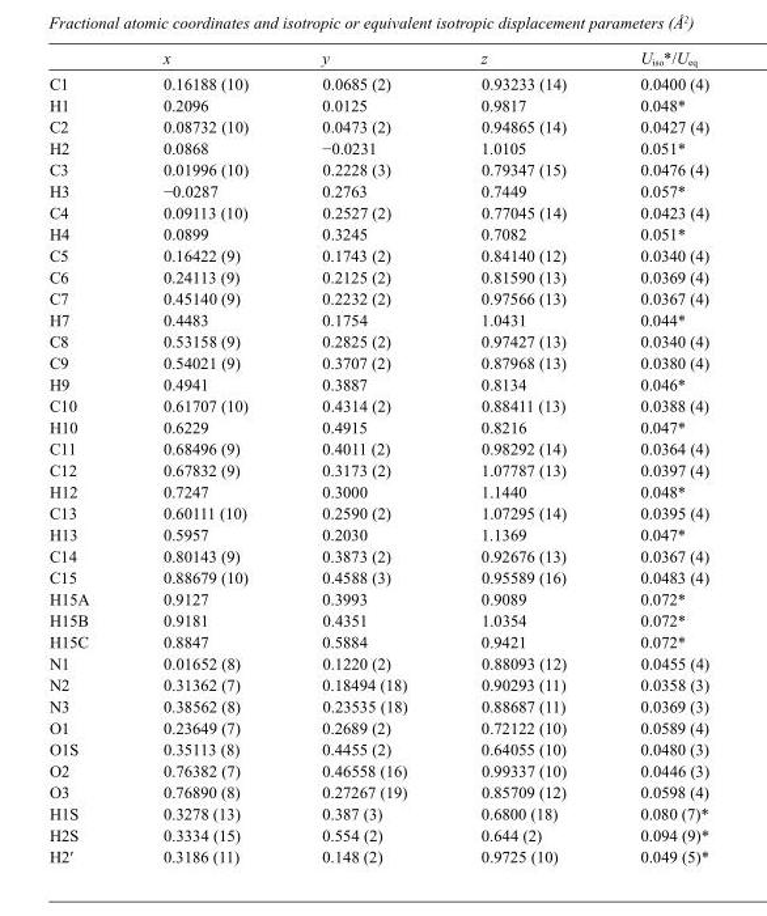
<table><thead><tr><td></td><td>x</td><td>y</td><td>z</td><td>U<sub>iso</sub>*/U<sub>eq</sub></td></tr></thead><tbody><tr><td>C1</td><td>0.16188 (10)</td><td>0.0685 (2)</td><td>0.93233 (14)</td><td>0.0400 (4)</td></tr><tr><td>H1</td><td>0.2096</td><td>0.0125</td><td>0.9817</td><td>0.048*</td></tr><tr><td>C2</td><td>0.08732 (10)</td><td>0.0473 (2)</td><td>0.94865 (14)</td><td>0.0427 (4)</td></tr><tr><td>H2</td><td>0.0868</td><td>−0.0231</td><td>1.0105</td><td>0.051*</td></tr><tr><td>C3</td><td>0.01996 (10)</td><td>0.2228 (3)</td><td>0.79347 (15)</td><td>0.0476 (4)</td></tr><tr><td>H3</td><td>−0.0287</td><td>0.2763</td><td>0.7449</td><td>0.057*</td></tr><tr><td>C4</td><td>0.09113 (10)</td><td>0.2527 (2)</td><td>0.77045 (14)</td><td>0.0423 (4)</td></tr><tr><td>H4</td><td>0.0899</td><td>0.3245</td><td>0.7082</td><td>0.051*</td></tr><tr><td>C5</td><td>0.16422 (9)</td><td>0.1743 (2)</td><td>0.84140 (12)</td><td>0.0340 (4)</td></tr><tr><td>C6</td><td>0.24113 (9)</td><td>0.2125 (2)</td><td>0.81590 (13)</td><td>0.0369 (4)</td></tr><tr><td>C7</td><td>0.45140 (9)</td><td>0.2232 (2)</td><td>0.97566 (13)</td><td>0.0367 (4)</td></tr><tr><td>H7</td><td>0.4483</td><td>0.1754</td><td>1.0431</td><td>0.044*</td></tr><tr><td>C8</td><td>0.53158 (9)</td><td>0.2825 (2)</td><td>0.97427 (13)</td><td>0.0340 (4)</td></tr><tr><td>C9</td><td>0.54021 (9)</td><td>0.3707 (2)</td><td>0.87968 (13)</td><td>0.0380 (4)</td></tr><tr><td>H9</td><td>0.4941</td><td>0.3887</td><td>0.8134</td><td>0.046*</td></tr><tr><td>C10</td><td>0.61707 (10)</td><td>0.4314 (2)</td><td>0.88411 (13)</td><td>0.0388 (4)</td></tr><tr><td>H10</td><td>0.6229</td><td>0.4915</td><td>0.8216</td><td>0.047*</td></tr><tr><td>C11</td><td>0.68496 (9)</td><td>0.4011 (2)</td><td>0.98292 (14)</td><td>0.0364 (4)</td></tr><tr><td>C12</td><td>0.67832 (9)</td><td>0.3173 (2)</td><td>1.07787 (13)</td><td>0.0397 (4)</td></tr><tr><td>H12</td><td>0.7247</td><td>0.3000</td><td>1.1440</td><td>0.048*</td></tr><tr><td>C13</td><td>0.60111 (10)</td><td>0.2590 (2)</td><td>1.07295 (14)</td><td>0.0395 (4)</td></tr><tr><td>H13</td><td>0.5957</td><td>0.2030</td><td>1.1369</td><td>0.047*</td></tr><tr><td>C14</td><td>0.80143 (9)</td><td>0.3873 (2)</td><td>0.92676 (13)</td><td>0.0367 (4)</td></tr><tr><td>C15</td><td>0.88679 (10)</td><td>0.4588 (3)</td><td>0.95589 (16)</td><td>0.0483 (4)</td></tr><tr><td>H15A</td><td>0.9127</td><td>0.3993</td><td>0.9089</td><td>0.072*</td></tr><tr><td>H15B</td><td>0.9181</td><td>0.4351</td><td>1.0354</td><td>0.072*</td></tr><tr><td>H15C</td><td>0.8847</td><td>0.5884</td><td>0.9421</td><td>0.072*</td></tr><tr><td>N1</td><td>0.01652 (8)</td><td>0.1220 (2)</td><td>0.88093 (12)</td><td>0.0455 (4)</td></tr><tr><td>N2</td><td>0.31362 (7)</td><td>0.18494 (18)</td><td>0.90293 (11)</td><td>0.0358 (3)</td></tr><tr><td>N3</td><td>0.38562 (8)</td><td>0.23535 (18)</td><td>0.88687 (11)</td><td>0.0369 (3)</td></tr><tr><td>O1</td><td>0.23649 (7)</td><td>0.2689 (2)</td><td>0.72122 (10)</td><td>0.0589 (4)</td></tr><tr><td>O1S</td><td>0.35113 (8)</td><td>0.4455 (2)</td><td>0.64055 (10)</td><td>0.0480 (3)</td></tr><tr><td>O2</td><td>0.76382 (7)</td><td>0.46558 (16)</td><td>0.99337 (10)</td><td>0.0446 (3)</td></tr><tr><td>O3</td><td>0.76890 (8)</td><td>0.27267 (19)</td><td>0.85709 (12)</td><td>0.0598 (4)</td></tr><tr><td>H1S</td><td>0.3278 (13)</td><td>0.387 (3)</td><td>0.6800 (18)</td><td>0.080 (7)*</td></tr><tr><td>H2S</td><td>0.3334 (15)</td><td>0.554 (2)</td><td>0.644 (2)</td><td>0.094 (9)*</td></tr><tr><td>H2′</td><td>0.3186 (11)</td><td>0.148 (2)</td><td>0.9725 (10)</td><td>0.049 (5)*</td></tr></tbody></table>